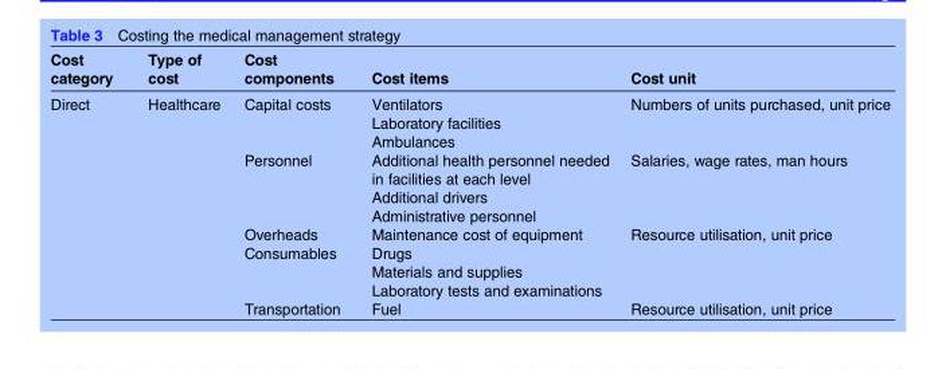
<table><thead><tr><td>Cost category</td><td>Type of cost</td><td>Cost components</td><td>Cost items</td><td>Cost unit</td></tr></thead><tbody><tr><td rowspan="5">Direct</td><td>Healthcare</td><td>Capital costs</td><td>Ventilators Laboratory facilities Ambulances</td><td>Numbers of units purchased, unit price</td></tr><tr><td></td><td>Personnel</td><td>Additional health personnel needed in facilities at each level Additional drivers Administrative personnel</td><td>Salaries, wage rates, man hours</td></tr><tr><td></td><td>Overheads</td><td>Maintenance cost of equipment</td><td>Resource utilisation, unit price</td></tr><tr><td></td><td>Consumables</td><td>Drugs Materials and supplies Laboratory tests and examinations</td><td></td></tr><tr><td></td><td>Transportation</td><td>Fuel</td><td>Resource utilisation, unit price</td></tr></tbody></table>